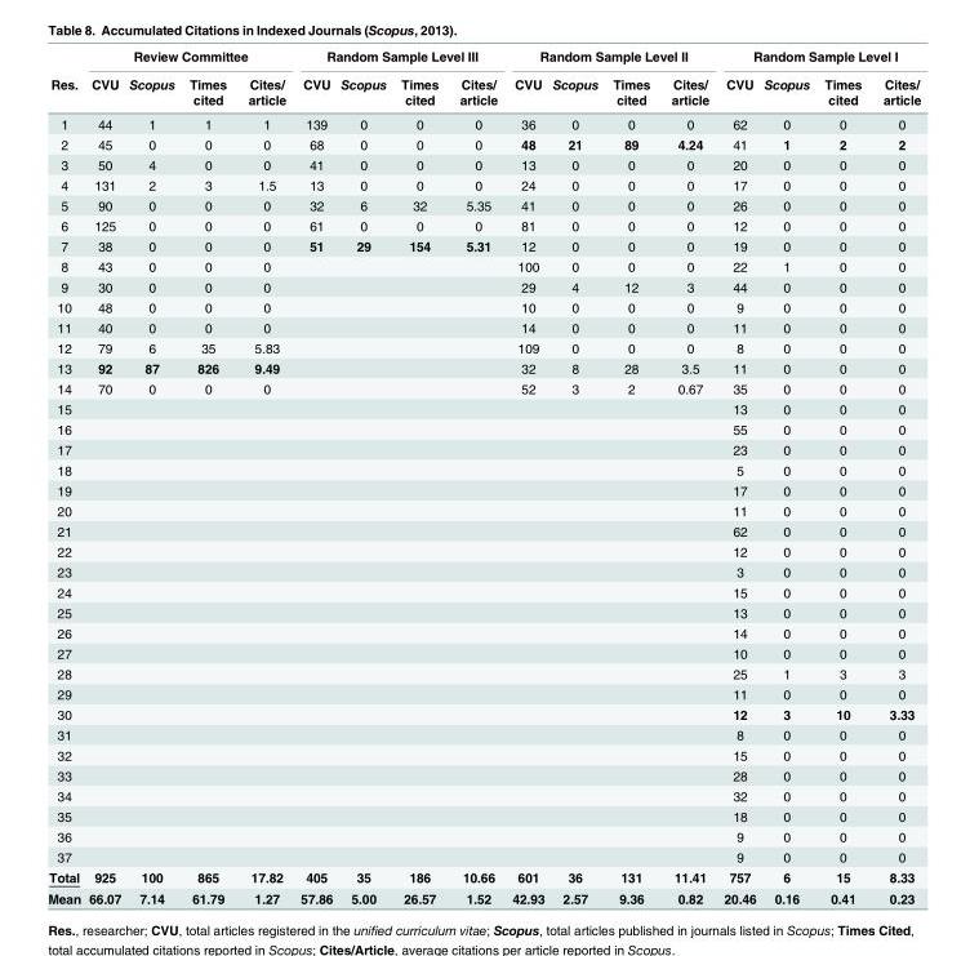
<table><thead><tr><td rowspan="2">Res.</td><td colspan="4">Review Committee</td><td colspan="4">Random Sample Level III</td><td colspan="4">Random Sample Level II</td><td colspan="4">Random Sample Level I</td></tr><tr><td>CVU</td><td>Scopus</td><td>Times cited</td><td>Cites/ article</td><td>CVU</td><td>Scopus</td><td>Times cited</td><td>Cites/ article</td><td>CVU</td><td>Scopus</td><td>Times cited</td><td>Cites/ article</td><td>CVU</td><td>Scopus</td><td>Times cited</td><td>Cites/ article</td></tr></thead><tbody><tr><td>1</td><td>44</td><td>1</td><td>1</td><td>1</td><td>139</td><td>0</td><td>0</td><td>0</td><td>36</td><td>0</td><td>0</td><td>0</td><td>62</td><td>0</td><td>0</td><td>0</td></tr><tr><td>2</td><td>45</td><td>0</td><td>0</td><td>0</td><td>68</td><td>0</td><td>0</td><td>0</td><td>48</td><td>21</td><td>89</td><td>4.24</td><td>41</td><td>1</td><td>2</td><td>2</td></tr><tr><td>3</td><td>50</td><td>4</td><td>0</td><td>0</td><td>41</td><td>0</td><td>0</td><td>0</td><td>13</td><td>0</td><td>0</td><td>0</td><td>20</td><td>0</td><td>0</td><td>0</td></tr><tr><td>4</td><td>131</td><td>2</td><td>3</td><td>1.5</td><td>13</td><td>0</td><td>0</td><td>0</td><td>24</td><td>0</td><td>0</td><td>0</td><td>17</td><td>0</td><td>0</td><td>0</td></tr><tr><td>5</td><td>90</td><td>0</td><td>0</td><td>0</td><td>32</td><td>6</td><td>32</td><td>5.35</td><td>41</td><td>0</td><td>0</td><td>0</td><td>26</td><td>0</td><td>0</td><td>0</td></tr><tr><td>6</td><td>125</td><td>0</td><td>0</td><td>0</td><td>61</td><td>0</td><td>0</td><td>0</td><td>81</td><td>0</td><td>0</td><td>0</td><td>12</td><td>0</td><td>0</td><td>0</td></tr><tr><td>7</td><td>38</td><td>0</td><td>0</td><td>0</td><td>51</td><td>29</td><td>154</td><td>5.31</td><td>12</td><td>0</td><td>0</td><td>0</td><td>19</td><td>0</td><td>0</td><td>0</td></tr><tr><td>8</td><td>43</td><td>0</td><td>0</td><td>0</td><td></td><td></td><td></td><td></td><td>100</td><td>0</td><td>0</td><td>0</td><td>22</td><td>1</td><td>0</td><td>0</td></tr><tr><td>9</td><td>30</td><td>0</td><td>0</td><td>0</td><td></td><td></td><td></td><td></td><td>29</td><td>4</td><td>12</td><td>3</td><td>44</td><td>0</td><td>0</td><td>0</td></tr><tr><td>10</td><td>48</td><td>0</td><td>0</td><td>0</td><td></td><td></td><td></td><td></td><td>10</td><td>0</td><td>0</td><td>0</td><td>9</td><td>0</td><td>0</td><td>0</td></tr><tr><td>11</td><td>40</td><td>0</td><td>0</td><td>0</td><td></td><td></td><td></td><td></td><td>14</td><td>0</td><td>0</td><td>0</td><td>11</td><td>0</td><td>0</td><td>0</td></tr><tr><td>12</td><td>79</td><td>6</td><td>35</td><td>5.83</td><td></td><td></td><td></td><td></td><td>109</td><td>0</td><td>0</td><td>0</td><td>8</td><td>0</td><td>0</td><td>0</td></tr><tr><td>13</td><td>92</td><td>87</td><td>826</td><td>9.49</td><td></td><td></td><td></td><td></td><td>32</td><td>8</td><td>28</td><td>3.5</td><td>11</td><td>0</td><td>0</td><td>0</td></tr><tr><td>14</td><td>70</td><td>0</td><td>0</td><td>0</td><td></td><td></td><td></td><td></td><td>52</td><td>3</td><td>2</td><td>0.67</td><td>35</td><td>0</td><td>0</td><td>0</td></tr><tr><td>15</td><td></td><td></td><td></td><td></td><td></td><td></td><td></td><td></td><td></td><td></td><td></td><td></td><td>13</td><td>0</td><td>0</td><td>0</td></tr><tr><td>16</td><td></td><td></td><td></td><td></td><td></td><td></td><td></td><td></td><td></td><td></td><td></td><td></td><td>55</td><td>0</td><td>0</td><td>0</td></tr><tr><td>17</td><td></td><td></td><td></td><td></td><td></td><td></td><td></td><td></td><td></td><td></td><td></td><td></td><td>23</td><td>0</td><td>0</td><td>0</td></tr><tr><td>18</td><td></td><td></td><td></td><td></td><td></td><td></td><td></td><td></td><td></td><td></td><td></td><td></td><td>5</td><td>0</td><td>0</td><td>0</td></tr><tr><td>19</td><td></td><td></td><td></td><td></td><td></td><td></td><td></td><td></td><td></td><td></td><td></td><td></td><td>17</td><td>0</td><td>0</td><td>0</td></tr><tr><td>20</td><td></td><td></td><td></td><td></td><td></td><td></td><td></td><td></td><td></td><td></td><td></td><td></td><td>11</td><td>0</td><td>0</td><td>0</td></tr><tr><td>21</td><td></td><td></td><td></td><td></td><td></td><td></td><td></td><td></td><td></td><td></td><td></td><td></td><td>62</td><td>0</td><td>0</td><td>0</td></tr><tr><td>22</td><td></td><td></td><td></td><td></td><td></td><td></td><td></td><td></td><td></td><td></td><td></td><td></td><td>12</td><td>0</td><td>0</td><td>0</td></tr><tr><td>23</td><td></td><td></td><td></td><td></td><td></td><td></td><td></td><td></td><td></td><td></td><td></td><td></td><td>3</td><td>0</td><td>0</td><td>0</td></tr><tr><td>24</td><td></td><td></td><td></td><td></td><td></td><td></td><td></td><td></td><td></td><td></td><td></td><td></td><td>15</td><td>0</td><td>0</td><td>0</td></tr><tr><td>25</td><td></td><td></td><td></td><td></td><td></td><td></td><td></td><td></td><td></td><td></td><td></td><td></td><td>13</td><td>0</td><td>0</td><td>0</td></tr><tr><td>26</td><td></td><td></td><td></td><td></td><td></td><td></td><td></td><td></td><td></td><td></td><td></td><td></td><td>14</td><td>0</td><td>0</td><td>0</td></tr><tr><td>27</td><td></td><td></td><td></td><td></td><td></td><td></td><td></td><td></td><td></td><td></td><td></td><td></td><td>10</td><td>0</td><td>0</td><td>0</td></tr><tr><td>28</td><td></td><td></td><td></td><td></td><td></td><td></td><td></td><td></td><td></td><td></td><td></td><td></td><td>25</td><td>1</td><td>3</td><td>3</td></tr><tr><td>29</td><td></td><td></td><td></td><td></td><td></td><td></td><td></td><td></td><td></td><td></td><td></td><td></td><td>11</td><td>0</td><td>0</td><td>0</td></tr><tr><td>30</td><td></td><td></td><td></td><td></td><td></td><td></td><td></td><td></td><td></td><td></td><td></td><td></td><td>12</td><td>3</td><td>10</td><td>3.33</td></tr><tr><td>31</td><td></td><td></td><td></td><td></td><td></td><td></td><td></td><td></td><td></td><td></td><td></td><td></td><td>8</td><td>0</td><td>0</td><td>0</td></tr><tr><td>32</td><td></td><td></td><td></td><td></td><td></td><td></td><td></td><td></td><td></td><td></td><td></td><td></td><td>15</td><td>0</td><td>0</td><td>0</td></tr><tr><td>33</td><td></td><td></td><td></td><td></td><td></td><td></td><td></td><td></td><td></td><td></td><td></td><td></td><td>28</td><td>0</td><td>0</td><td>0</td></tr><tr><td>34</td><td></td><td></td><td></td><td></td><td></td><td></td><td></td><td></td><td></td><td></td><td></td><td></td><td>32</td><td>0</td><td>0</td><td>0</td></tr><tr><td>35</td><td></td><td></td><td></td><td></td><td></td><td></td><td></td><td></td><td></td><td></td><td></td><td></td><td>18</td><td>0</td><td>0</td><td>0</td></tr><tr><td>36</td><td></td><td></td><td></td><td></td><td></td><td></td><td></td><td></td><td></td><td></td><td></td><td></td><td>9</td><td>0</td><td>0</td><td>0</td></tr><tr><td>37</td><td></td><td></td><td></td><td></td><td></td><td></td><td></td><td></td><td></td><td></td><td></td><td></td><td>9</td><td>0</td><td>0</td><td>0</td></tr><tr><td>Total</td><td>925</td><td>100</td><td>865</td><td>17.82</td><td>405</td><td>35</td><td>186</td><td>10.66</td><td>601</td><td>36</td><td>131</td><td>11.41</td><td>757</td><td>6</td><td>15</td><td>8.33</td></tr><tr><td>Mean</td><td>66.07</td><td>7.14</td><td>61.79</td><td>1.27</td><td>57.86</td><td>5.00</td><td>26.57</td><td>1.52</td><td>42.93</td><td>2.57</td><td>9.36</td><td>0.82</td><td>20.46</td><td>0.16</td><td>0.41</td><td>0.23</td></tr></tbody></table>